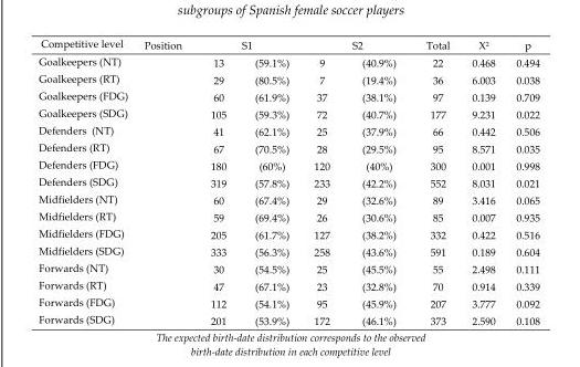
<table><thead><tr><td>Competitive level</td><td>Position</td><td>S1</td><td>S2</td><td>Total</td><td>X<sup>2</sup></td><td>p</td></tr></thead><tbody><tr><td>Goalkeepers (NT)</td><td></td><td>13 (59.1%)</td><td>9 (40.9%)</td><td>22</td><td>0.468</td><td>0.494</td></tr><tr><td>Goalkeepers (RT)</td><td></td><td>29 (80.5%)</td><td>7 (19.4%)</td><td>36</td><td>6.003</td><td>0.038</td></tr><tr><td>Goalkeepers (FDG)</td><td></td><td>60 (61.9%)</td><td>37 (38.1%)</td><td>97</td><td>0.139</td><td>0.709</td></tr><tr><td>Goalkeepers (SDG)</td><td></td><td>105 (59.3%)</td><td>72 (40.7%)</td><td>177</td><td>9.231</td><td>0.022</td></tr><tr><td>Defenders (NT)</td><td></td><td>41 (62.1%)</td><td>25 (37.9%)</td><td>66</td><td>0.442</td><td>0.506</td></tr><tr><td>Defenders (RT)</td><td></td><td>67 (70.5%)</td><td>28 (29.5%)</td><td>95</td><td>8.571</td><td>0.035</td></tr><tr><td>Defenders (FDG)</td><td></td><td>180 (60%)</td><td>120 (40%)</td><td>300</td><td>0.001</td><td>0.998</td></tr><tr><td>Defenders (SDG)</td><td></td><td>319 (57.8%)</td><td>233 (42.2%)</td><td>552</td><td>8.031</td><td>0.021</td></tr><tr><td>Midfielders (NT)</td><td></td><td>60 (67.4%)</td><td>29 (32.6%)</td><td>89</td><td>3.416</td><td>0.065</td></tr><tr><td>Midfielders (RT)</td><td></td><td>59 (69.4%)</td><td>26 (30.6%)</td><td>85</td><td>0.007</td><td>0.935</td></tr><tr><td>Midfielders (FDG)</td><td></td><td>205 (61.7%)</td><td>127 (38.2%)</td><td>332</td><td>0.422</td><td>0.516</td></tr><tr><td>Midfielders (SDG)</td><td></td><td>333 (56.3%)</td><td>258 (43.6%)</td><td>591</td><td>0.189</td><td>0.604</td></tr><tr><td>Forwards (NT)</td><td></td><td>30 (54.5%)</td><td>25 (45.5%)</td><td>55</td><td>2.498</td><td>0.111</td></tr><tr><td>Forwards (RT)</td><td></td><td>47 (67.1%)</td><td>23 (32.8%)</td><td>70</td><td>0.914</td><td>0.339</td></tr><tr><td>Forwards (FDG)</td><td></td><td>112 (54.1%)</td><td>95 (45.9%)</td><td>207</td><td>3.777</td><td>0.092</td></tr><tr><td>Forwards (SDG)</td><td></td><td>201 (53.9%)</td><td>172 (46.1%)</td><td>373</td><td>2.590</td><td>0.108</td></tr></tbody></table>